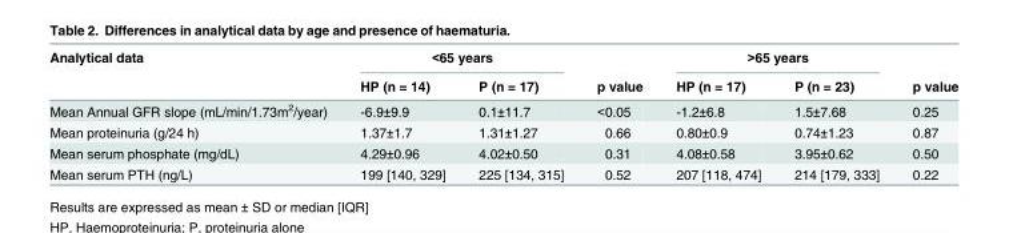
<table><thead><tr><td rowspan="2">Analytical data</td><td colspan="2">&lt;65 years</td><td rowspan="2">p value</td><td colspan="2">&gt;65 years</td><td rowspan="2">p value</td></tr><tr><td>HP (n = 14)</td><td>P (n = 17)</td><td>HP (n = 17)</td><td>P (n = 23)</td></tr></thead><tbody><tr><td>Mean Annual GFR slope (mL/min/1.73m<sup>2</sup>/year)</td><td>-6.9±9.9</td><td>0.1±11.7</td><td>&lt;0.05</td><td>-1.2±6.8</td><td>1.5±7.68</td><td>0.25</td></tr><tr><td>Mean proteinuria (g/24 h)</td><td>1.37±1.7</td><td>1.31±1.27</td><td>0.66</td><td>0.80±0.9</td><td>0.74±1.23</td><td>0.87</td></tr><tr><td>Mean serum phosphate (mg/dL)</td><td>4.29±0.96</td><td>4.02±0.50</td><td>0.31</td><td>4.08±0.58</td><td>3.95±0.62</td><td>0.50</td></tr><tr><td>Mean serum PTH (ng/L)</td><td>199 [140, 329]</td><td>225 [134, 315]</td><td>0.52</td><td>207 [118, 474]</td><td>214 [179, 333]</td><td>0.22</td></tr></tbody></table>